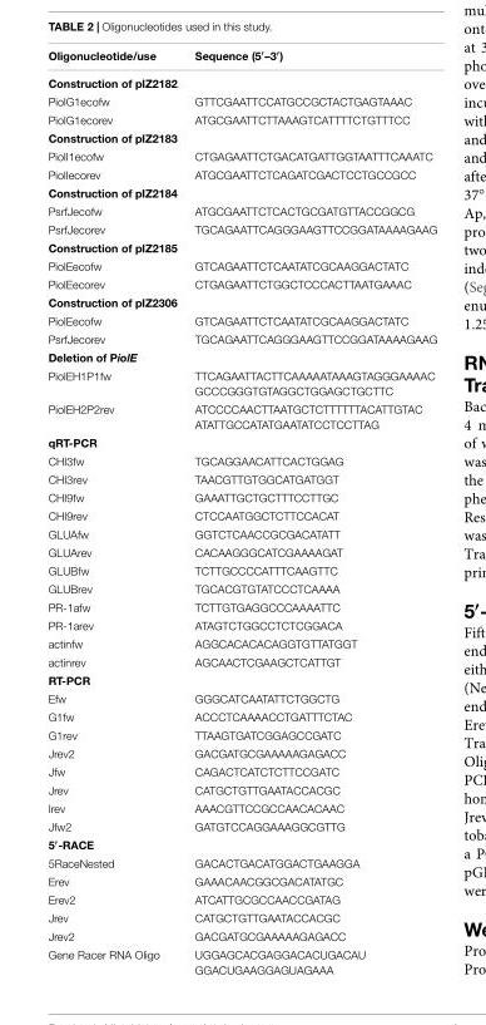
<table><thead><tr><td>Oligonucleotide/use</td><td>Sequence (5′–3′)</td></tr></thead><tbody><tr><td colspan="2">Construction of pIZ2182</td></tr><tr><td>PiolG1ecofw</td><td>GTTCGAATTCCATGCCGCTACTGAGTAAAC</td></tr><tr><td>PiolG1ecorev</td><td>ATGCGAATTCTTAAAGTCATTTTCTGTTTCC</td></tr><tr><td colspan="2">Construction of pIZ2183</td></tr><tr><td>PiolI1ecofw</td><td>CTGAGAATTCTGACATGATTGGTAATTTCAAATC</td></tr><tr><td>PiolIecorev</td><td>ATGCGAATTCTCAGATCGACTCCTGCCGCC</td></tr><tr><td colspan="2">Construction of pIZ2184</td></tr><tr><td>PsrfJecofw</td><td>ATGCGAATTCTCACTGCGATGTTACCGGCG</td></tr><tr><td>PsrfJecorev</td><td>TGCAGAATTCAGGGAAGTTCCGGATAAAAGAAG</td></tr><tr><td colspan="2">Construction of pIZ2185</td></tr><tr><td>PiolEecofw</td><td>GTCAGAATTCTCAATATCGCAAGGACTATC</td></tr><tr><td>PiolEecorev</td><td>CTGAGAATTCTGGCTCCCACTTAATGAAAC</td></tr><tr><td colspan="2">Construction of pIZ2306</td></tr><tr><td>PiolEecofw</td><td>GTCAGAATTCTCAATATCGCAAGGACTATC</td></tr><tr><td>PsrfJecorev</td><td>TGCAGAATTCAGGGAAGTTCCGGATAAAAGAAG</td></tr><tr><td colspan="2">Deletion of PiolE</td></tr><tr><td rowspan="2">PiolEH1P1fw</td><td>TTCAGAATTACTTCAAAAATAAAGTAGGGAAAAC</td></tr><tr><td>GCCCGGGTGTAGGCTGGAGCTGCTTC</td></tr><tr><td rowspan="2">PiolEH2P2rev</td><td>ATCCCCAACTTAATGCTCTTTTTTACATTGTAC</td></tr><tr><td>ATATTGCCATATGAATATCCTCCTTAG</td></tr><tr><td colspan="2">qRT-PCR</td></tr><tr><td>CHI3fw</td><td>TGCAGGAACATTCACTGGAG</td></tr><tr><td>CHI3rev</td><td>TAACGTTGTGGCATGATGGT</td></tr><tr><td>CHI9fw</td><td>GAAATTGCTGCTTTCCTTGC</td></tr><tr><td>CHI9rev</td><td>CTCCAATGGCTCTTCCACAT</td></tr><tr><td>GLUAfw</td><td>GGTCTCAACCGCGACATATT</td></tr><tr><td>GLUArev</td><td>CACAAGGGCATCGAAAAGAT</td></tr><tr><td>GLUBfw</td><td>TCTTGCCCCATTTCAAGTTC</td></tr><tr><td>GLUBrev</td><td>TGCACGTGTATCCCTCAAAA</td></tr><tr><td>PR-1afw</td><td>TCTTGTGAGGCCCAAAATTC</td></tr><tr><td>PR-1arev</td><td>ATAGTCTGGCCTCTCGGACA</td></tr><tr><td>actinfw</td><td>AGGCACACACAGGTGTTATGGT</td></tr><tr><td>actinrev</td><td>AGCAACTCGAAGCTCATTGT</td></tr><tr><td colspan="2">RT-PCR</td></tr><tr><td>Efw</td><td>GGGCATCAATATTCTGGCTG</td></tr><tr><td>G1fw</td><td>ACCCTCAAAACCTGATTTCTAC</td></tr><tr><td>G1rev</td><td>TTAAGTGATCGGAGCCGATC</td></tr><tr><td>Jrev2</td><td>GACGATGCGAAAAAGAGACC</td></tr><tr><td>Jfw</td><td>CAGACTCATCTCTTCCGATC</td></tr><tr><td>Jrev</td><td>CATGCTGTTGAATACCACGC</td></tr><tr><td>Irev</td><td>AAACGTTCCGCCAACACAAC</td></tr><tr><td>Jfw2</td><td>GATGTCCAGGAAAGGCGTTG</td></tr><tr><td colspan="2">5′-RACE</td></tr><tr><td>5RaceNested</td><td>GACACTGACATGGACTGAAGGA</td></tr><tr><td>Erev</td><td>GAAACAACGGCGACATATGC</td></tr><tr><td>Erev2</td><td>ATCATTGCGCCAACCGATAG</td></tr><tr><td>Jrev</td><td>CATGCTGTTGAATACCACGC</td></tr><tr><td>Jrev2</td><td>GACGATGCGAAAAAGAGACC</td></tr><tr><td rowspan="2">Gene Racer RNA Oligo</td><td>UGGAGCACGAGGACACUGACAU</td></tr><tr><td>GGACUGAAGGAGUAGAAA</td></tr></tbody></table>